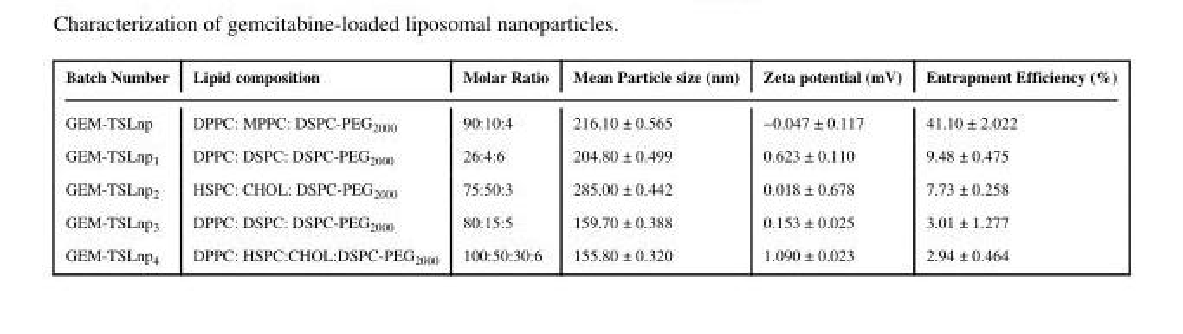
<table><thead><tr><td>Batch Number</td><td>Lipid composition</td><td>Molar Ratio</td><td>Mean Particle size (nm)</td><td>Zeta potential (mV)</td><td>Entrapment Efficiency (%)</td></tr></thead><tbody><tr><td>GEM-TSLnp</td><td>DPPC: MPPC: DSPC-PEG<sub>2000</sub></td><td>90:10:4</td><td>216.10 ± 0.565</td><td>−0.047 ± 0.117</td><td>41.10 ± 2.022</td></tr><tr><td>GEM-TSLnp<sub>1</sub></td><td>DPPC: DSPC: DSPC-PEG<sub>2000</sub></td><td>26:4:6</td><td>204.80 ± 0.499</td><td>0.623 ± 0.110</td><td>9.48 ± 0.475</td></tr><tr><td>GEM-TSLnp<sub>2</sub></td><td>HSPC: CHOL: DSPC-PEG<sub>2000</sub></td><td>75:50:3</td><td>285.00 ± 0.442</td><td>0.018 ± 0.678</td><td>7.73 ± 0.258</td></tr><tr><td>GEM-TSLnp<sub>3</sub></td><td>DPPC: DSPC: DSPC-PEG<sub>2000</sub></td><td>80:15:5</td><td>159.70 ± 0.388</td><td>0.153 ± 0.025</td><td>3.01 ± 1.277</td></tr><tr><td>GEM-TSLnp<sub>4</sub></td><td>DPPC: HSPC:CHOL:DSPC-PEG<sub>2000</sub></td><td>100:50:30:6</td><td>155.80 ± 0.320</td><td>1.090 ± 0.023</td><td>2.94 ± 0.464</td></tr></tbody></table>